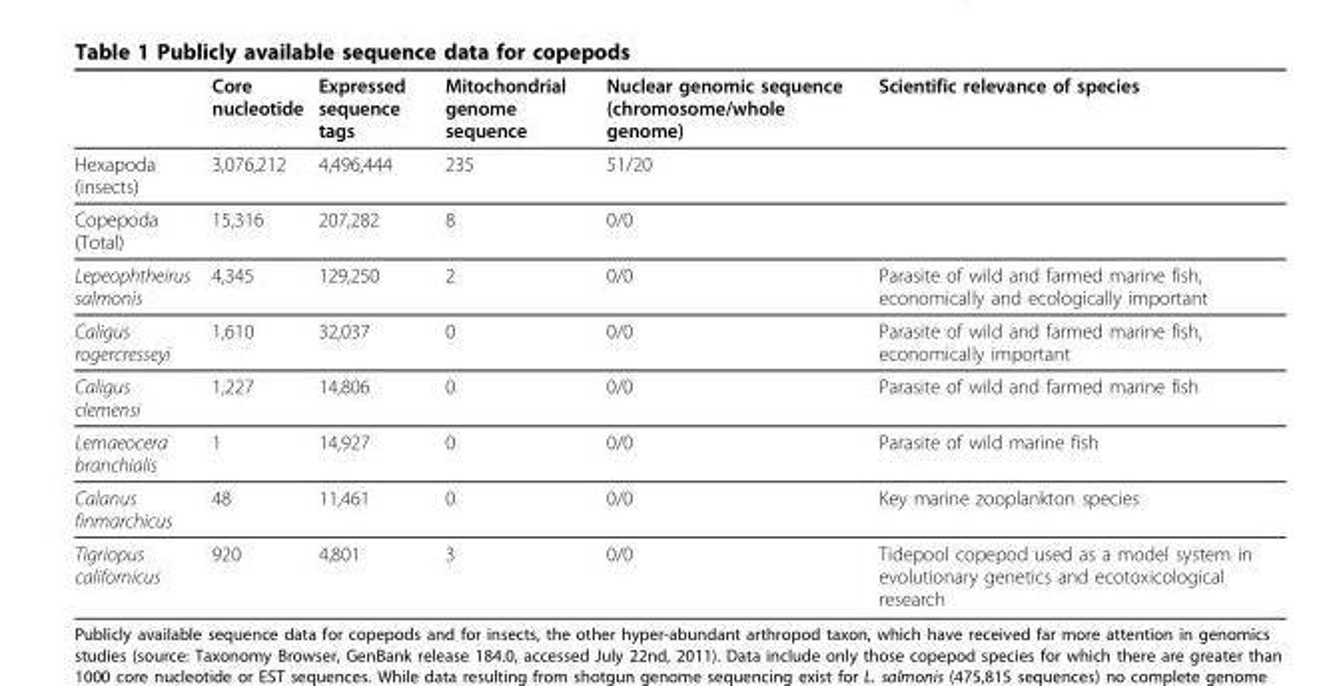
<table><thead><tr><td></td><td>Core nucleotide</td><td>Expressed sequence tags</td><td>Mitochondrial genome sequence</td><td>Nuclear genomic sequence (chromosome/whole genome)</td><td>Scientific relevance of species</td></tr></thead><tbody><tr><td>Hexapoda (insects)</td><td>3,076,212</td><td>4,496,444</td><td>235</td><td>51/20</td><td></td></tr><tr><td>Copepoda (Total)</td><td>15,316</td><td>207,282</td><td>8</td><td>0/0</td><td></td></tr><tr><td>Lepeophtheirus salmonis</td><td>4,345</td><td>129,250</td><td>2</td><td>0/0</td><td>Parasite of wild and farmed marine fish, economically and ecologically important</td></tr><tr><td>Caligus rogercresseyi</td><td>1,610</td><td>32,037</td><td>0</td><td>0/0</td><td>Parasite of wild and farmed marine fish, economically important</td></tr><tr><td>Caligus clemensi</td><td>1,227</td><td>14,806</td><td>0</td><td>0/0</td><td>Parasite of wild and farmed marine fish</td></tr><tr><td>Lernaeocera branchialis</td><td>1</td><td>14,927</td><td>0</td><td>0/0</td><td>Parasite of wild marine fish</td></tr><tr><td>Calanus finmarchicus</td><td>48</td><td>11,461</td><td>0</td><td>0/0</td><td>Key marine zooplankton species</td></tr><tr><td>Tigriopus californicus</td><td>920</td><td>4,801</td><td>3</td><td>0/0</td><td>Tidepool copepod used as a model system in evolutionary genetics and ecotoxicological research</td></tr></tbody></table>